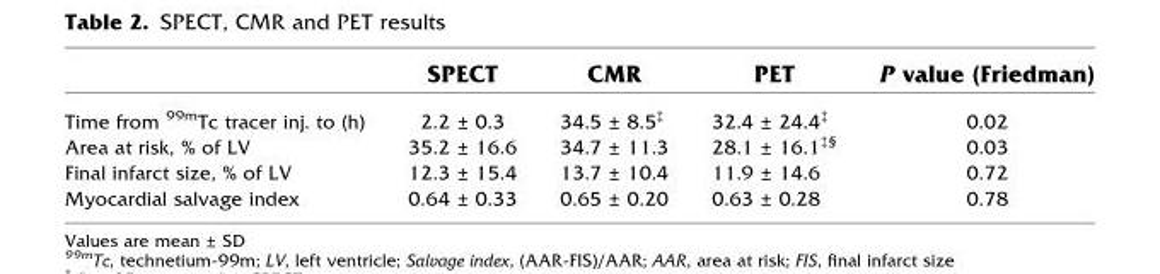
<table><thead><tr><td></td><td>SPECT</td><td>CMR</td><td>PET</td><td>P value (Friedman)</td></tr></thead><tbody><tr><td>Time from <sup>99m</sup>Tc tracer inj. to (h)</td><td>2.2 ± 0.3</td><td>34.5 ± 8.5<sup>‡</sup></td><td>32.4 ± 24.4<sup>‡</sup></td><td>0.02</td></tr><tr><td>Area at risk, % of LV</td><td>35.2 ± 16.6</td><td>34.7 ± 11.3</td><td>28.1 ± 16.1<sup>‡§</sup></td><td>0.03</td></tr><tr><td>Final infarct size, % of LV</td><td>12.3 ± 15.4</td><td>13.7 ± 10.4</td><td>11.9 ± 14.6</td><td>0.72</td></tr><tr><td>Myocardial salvage index</td><td>0.64 ± 0.33</td><td>0.65 ± 0.20</td><td>0.63 ± 0.28</td><td>0.78</td></tr></tbody></table>